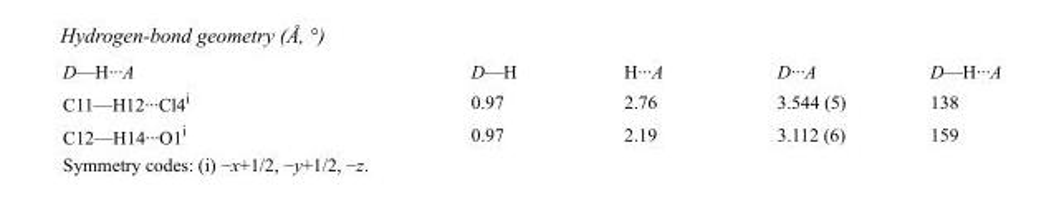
<table><tbody><tr><td>D—H···A</td><td>D—H</td><td>H···A</td><td>D···A</td><td>D—H···A</td></tr><tr><td>C11—H12···Cl4<sup>i</sup></td><td>0.97</td><td>2.76</td><td>3.544 (5)</td><td>138</td></tr><tr><td>C12—H14···O1<sup>i</sup></td><td>0.97</td><td>2.19</td><td>3.112 (6)</td><td>159</td></tr></tbody></table>